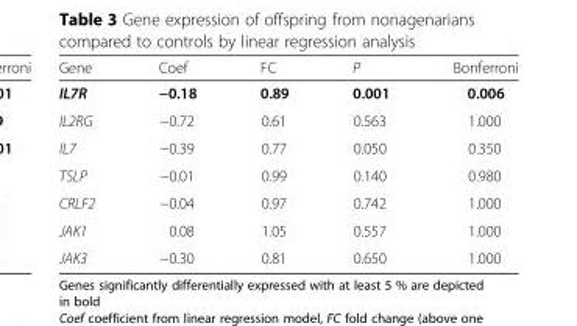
<table><thead><tr><td>Gene</td><td>Coef</td><td>FC</td><td>P</td><td>Bonferroni</td></tr></thead><tbody><tr><td>IL7R</td><td>−0.18</td><td>0.89</td><td>0.001</td><td>0.006</td></tr><tr><td>IL2RG</td><td>−0.72</td><td>0.61</td><td>0.563</td><td>1.000</td></tr><tr><td>IL7</td><td>−0.39</td><td>0.77</td><td>0.050</td><td>0.350</td></tr><tr><td>TSLP</td><td>−0.01</td><td>0.99</td><td>0.140</td><td>0.980</td></tr><tr><td>CRLF2</td><td>−0.04</td><td>0.97</td><td>0.742</td><td>1.000</td></tr><tr><td>JAK1</td><td>0.08</td><td>1.05</td><td>0.557</td><td>1.000</td></tr><tr><td>JAK3</td><td>−0.30</td><td>0.81</td><td>0.650</td><td>1.000</td></tr></tbody></table>